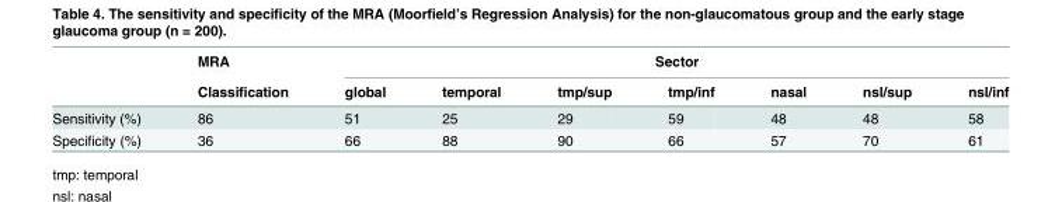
<table><thead><tr><td rowspan="2"></td><td rowspan="2">MRA Classification</td><td colspan="7">Sector</td></tr><tr><td>global</td><td>temporal</td><td>tmp/sup</td><td>tmp/inf</td><td>nasal</td><td>nsl/sup</td><td>nsl/inf</td></tr></thead><tbody><tr><td>Sensitivity (%)</td><td>86</td><td>51</td><td>25</td><td>29</td><td>59</td><td>48</td><td>48</td><td>58</td></tr><tr><td>Specificity (%)</td><td>36</td><td>66</td><td>88</td><td>90</td><td>66</td><td>57</td><td>70</td><td>61</td></tr></tbody></table>